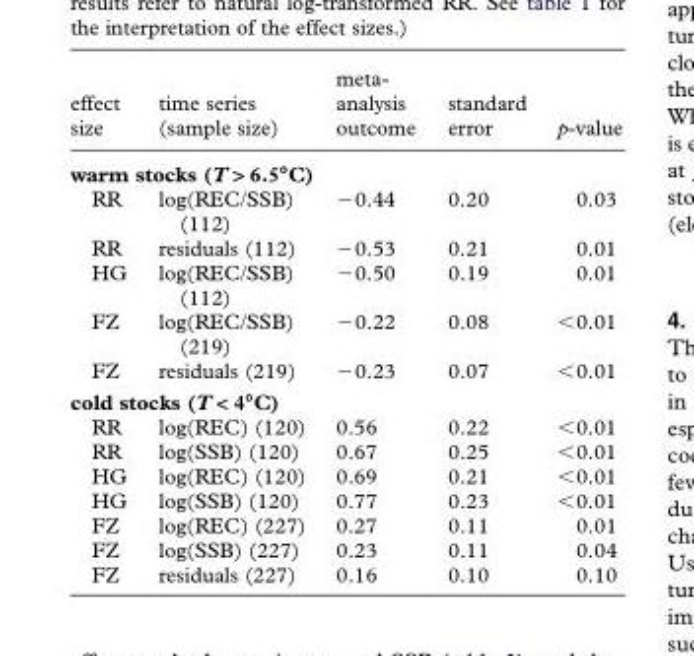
<table><thead><tr><td>effect size</td><td>time series (sample size)</td><td>meta- analysis outcome</td><td>standard error</td><td>p-value</td></tr></thead><tbody><tr><td colspan="5">warm stocks (T &gt; 6.588888C)</td></tr><tr><td>RR</td><td>log(REC/SSB) (112)</td><td>−0.44</td><td>0.20</td><td>0.03</td></tr><tr><td>RR</td><td>residuals (112)</td><td>−0.53</td><td>0.21</td><td>0.01</td></tr><tr><td>HG</td><td>log(REC/SSB) (112)</td><td>−0.50</td><td>0.19</td><td>0.01</td></tr><tr><td>FZ</td><td>log(REC/SSB) (219)</td><td>−0.22</td><td>0.08</td><td>&lt;0.01</td></tr><tr><td>FZ</td><td>residuals (219)</td><td>−0.23</td><td>0.07</td><td>&lt;0.01</td></tr><tr><td colspan="5">cold stocks (T &lt; 488888C)</td></tr><tr><td>RR</td><td>log(REC) (120)</td><td>0.56</td><td>0.22</td><td>&lt;0.01</td></tr><tr><td>RR</td><td>log(SSB) (120)</td><td>0.67</td><td>0.25</td><td>&lt;0.01</td></tr><tr><td>HG</td><td>log(REC) (120)</td><td>0.69</td><td>0.21</td><td>&lt;0.01</td></tr><tr><td>HG</td><td>log(SSB) (120)</td><td>0.77</td><td>0.23</td><td>&lt;0.01</td></tr><tr><td>FZ</td><td>log(REC) (227)</td><td>0.27</td><td>0.11</td><td>0.01</td></tr><tr><td>FZ</td><td>log(SSB) (227)</td><td>0.23</td><td>0.11</td><td>0.04</td></tr><tr><td>FZ</td><td>residuals (227)</td><td>0.16</td><td>0.10</td><td>0.10</td></tr></tbody></table>